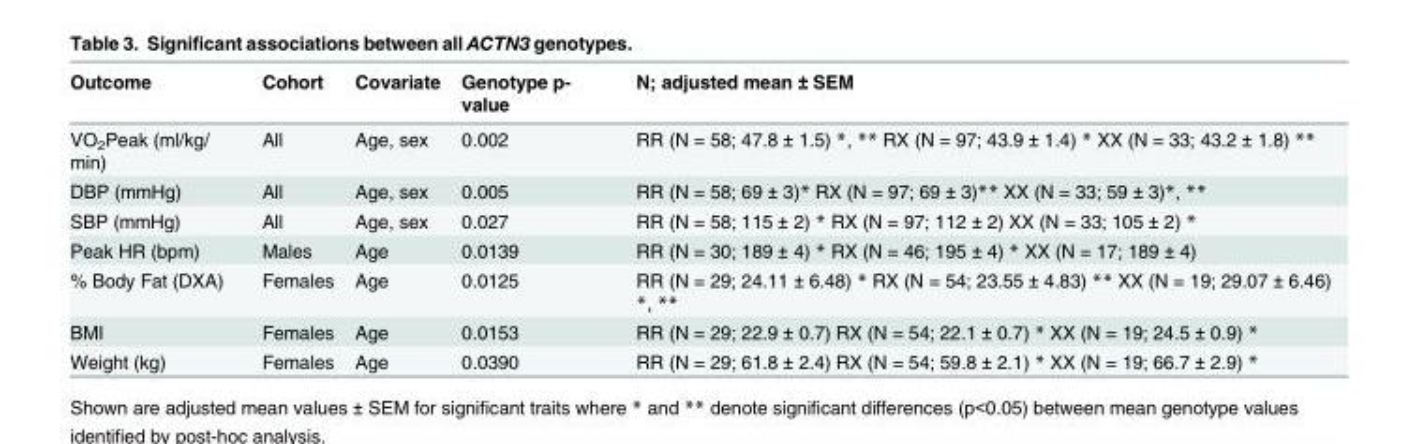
<table><thead><tr><td>Outcome</td><td>Cohort</td><td>Covariate</td><td>Genotype p- value</td><td>N; adjusted mean ± SEM</td></tr></thead><tbody><tr><td>VO<sub>2</sub>Peak (ml/kg/ min)</td><td>All</td><td>Age, sex</td><td>0.002</td><td>RR (N = 58; 47.8 ± 1.5) *, ** RX (N = 97; 43.9 ± 1.4) * XX (N = 33; 43.2 ± 1.8) **</td></tr><tr><td>DBP (mmHg)</td><td>All</td><td>Age, sex</td><td>0.005</td><td>RR (N = 58; 69 ± 3)* RX (N = 97; 69 ± 3)** XX (N = 33; 59 ± 3)*, **</td></tr><tr><td>SBP (mmHg)</td><td>All</td><td>Age, sex</td><td>0.027</td><td>RR (N = 58; 115 ± 2) * RX (N = 97; 112 ± 2) XX (N = 33; 105 ± 2) *</td></tr><tr><td>Peak HR (bpm)</td><td>Males</td><td>Age</td><td>0.0139</td><td>RR (N = 30; 189 ± 4) * RX (N = 46; 195 ± 4) * XX (N = 17; 189 ± 4)</td></tr><tr><td>% Body Fat (DXA)</td><td>Females</td><td>Age</td><td>0.0125</td><td>RR (N = 29; 24.11 ± 6.48) * RX (N = 54; 23.55 ± 4.83) ** XX (N = 19; 29.07 ± 6.46) *, **</td></tr><tr><td>BMI</td><td>Females</td><td>Age</td><td>0.0153</td><td>RR (N = 29; 22.9 ± 0.7) RX (N = 54; 22.1 ± 0.7) * XX (N = 19; 24.5 ± 0.9) *</td></tr><tr><td>Weight (kg)</td><td>Females</td><td>Age</td><td>0.0390</td><td>RR (N = 29; 61.8 ± 2.4) RX (N = 54; 59.8 ± 2.1) * XX (N = 19; 66.7 ± 2.9) *</td></tr></tbody></table>